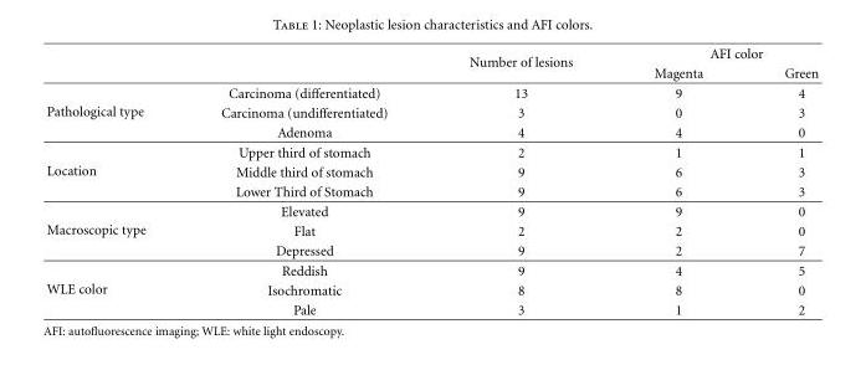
<table><thead><tr><td rowspan="2"></td><td rowspan="2"></td><td rowspan="2">Number of lesions</td><td colspan="2">AFI color</td></tr><tr><td>Magenta</td><td>Green</td></tr></thead><tbody><tr><td rowspan="3">Pathological type</td><td>Carcinoma (differentiated)</td><td>13</td><td>9</td><td>4</td></tr><tr><td>Carcinoma (undifferentiated)</td><td>3</td><td>0</td><td>3</td></tr><tr><td>Adenoma</td><td>4</td><td>4</td><td>0</td></tr><tr><td rowspan="3">Location</td><td>Upper third of stomach</td><td>2</td><td>1</td><td>1</td></tr><tr><td>Middle third of stomach</td><td>9</td><td>6</td><td>3</td></tr><tr><td>Lower Third of Stomach</td><td>9</td><td>6</td><td>3</td></tr><tr><td rowspan="3">Macroscopic type</td><td>Elevated</td><td>9</td><td>9</td><td>0</td></tr><tr><td>Flat</td><td>2</td><td>2</td><td>0</td></tr><tr><td>Depressed</td><td>9</td><td>2</td><td>7</td></tr><tr><td rowspan="3">WLE color</td><td>Reddish</td><td>9</td><td>4</td><td>5</td></tr><tr><td>Isochromatic</td><td>8</td><td>8</td><td>0</td></tr><tr><td>Pale</td><td>3</td><td>1</td><td>2</td></tr></tbody></table>